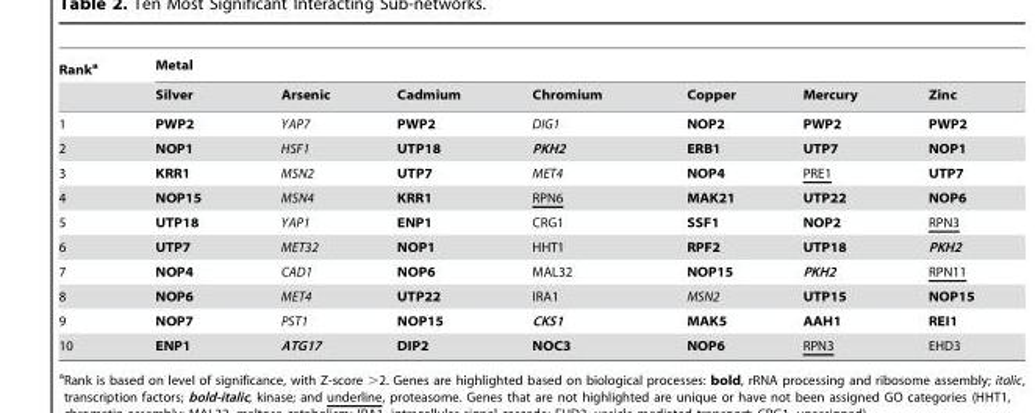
<table><thead><tr><td rowspan="2">Rank<sup>a</sup></td><td colspan="7">Metal</td></tr><tr><td>Silver</td><td>Arsenic</td><td>Cadmium</td><td>Chromium</td><td>Copper</td><td>Mercury</td><td>Zinc</td></tr></thead><tbody><tr><td>1</td><td>PWP2</td><td>YAP7</td><td>PWP2</td><td>DIG1</td><td>NOP2</td><td>PWP2</td><td>PWP2</td></tr><tr><td>2</td><td>NOP1</td><td>HSF1</td><td>UTP18</td><td>PKH2</td><td>ERB1</td><td>UTP7</td><td>NOP1</td></tr><tr><td>3</td><td>KRR1</td><td>MSN2</td><td>UTP7</td><td>MET4</td><td>NOP4</td><td>PRE1</td><td>UTP7</td></tr><tr><td>4</td><td>NOP15</td><td>MSN4</td><td>KRR1</td><td>RPN6</td><td>MAK21</td><td>UTP22</td><td>NOP6</td></tr><tr><td>5</td><td>UTP18</td><td>YAP1</td><td>ENP1</td><td>CRG1</td><td>SSF1</td><td>NOP2</td><td>RPN3</td></tr><tr><td>6</td><td>UTP7</td><td>MET32</td><td>NOP1</td><td>HHT1</td><td>RPF2</td><td>UTP18</td><td>PKH2</td></tr><tr><td>7</td><td>NOP4</td><td>CAD1</td><td>NOP6</td><td>MAL32</td><td>NOP15</td><td>PKH2</td><td>RPN11</td></tr><tr><td>8</td><td>NOP6</td><td>MET4</td><td>UTP22</td><td>IRA1</td><td>MSN2</td><td>UTP15</td><td>NOP15</td></tr><tr><td>9</td><td>NOP7</td><td>PST1</td><td>NOP15</td><td>CKS1</td><td>MAK5</td><td>AAH1</td><td>REI1</td></tr><tr><td>10</td><td>ENP1</td><td>ATG17</td><td>DIP2</td><td>NOC3</td><td>NOP6</td><td>RPN3</td><td>EHD3</td></tr></tbody></table>